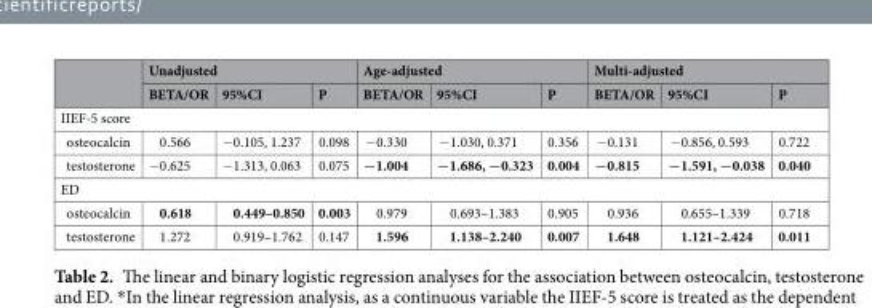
<table><thead><tr><td rowspan="2"></td><td colspan="3">Unadjusted</td><td colspan="3">Age-adjusted</td><td colspan="3">Multi-adjusted</td></tr><tr><td>BETA/OR</td><td>95%CI</td><td>P</td><td>BETA/OR</td><td>95%CI</td><td>P</td><td>BETA/OR</td><td>95%CI</td><td>P</td></tr></thead><tbody><tr><td colspan="10">IIEF-5 score</td></tr><tr><td>osteocalcin</td><td>0.566</td><td>−0.105, 1.237</td><td>0.098</td><td>−0.330</td><td>−1.030, 0.371</td><td>0.356</td><td>−0.131</td><td>−0.856, 0.593</td><td>0.722</td></tr><tr><td>testosterone</td><td>−0.625</td><td>−1.313, 0.063</td><td>0.075</td><td>−1.004</td><td>−1.686, −0.323</td><td>0.004</td><td>−0.815</td><td>−1.591, −0.038</td><td>0.040</td></tr><tr><td colspan="10">ED</td></tr><tr><td>osteocalcin</td><td>0.618</td><td>0.449–0.850</td><td>0.003</td><td>0.979</td><td>0.693–1.383</td><td>0.905</td><td>0.936</td><td>0.655–1.339</td><td>0.718</td></tr><tr><td>testosterone</td><td>1.272</td><td>0.919–1.762</td><td>0.147</td><td>1.596</td><td>1.138–2.240</td><td>0.007</td><td>1.648</td><td>1.121–2.424</td><td>0.011</td></tr></tbody></table>